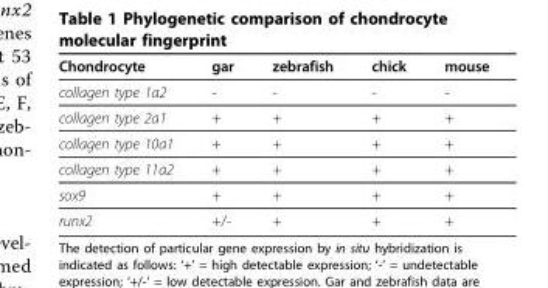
<table><thead><tr><td>Chondrocyte</td><td>gar</td><td>zebrafish</td><td>chick</td><td>mouse</td></tr></thead><tbody><tr><td>collagen type 1a2</td><td>-</td><td>-</td><td>-</td><td>-</td></tr><tr><td>collagen type 2a1</td><td>+</td><td>+</td><td>+</td><td>+</td></tr><tr><td>collagen type 10a1</td><td>+</td><td>+</td><td>+</td><td>+</td></tr><tr><td>collagen type 11a2</td><td>+</td><td>+</td><td>+</td><td>+</td></tr><tr><td>sox9</td><td>+</td><td>+</td><td>+</td><td>+</td></tr><tr><td>runx2</td><td>+/-</td><td>+</td><td>+</td><td>+</td></tr></tbody></table>